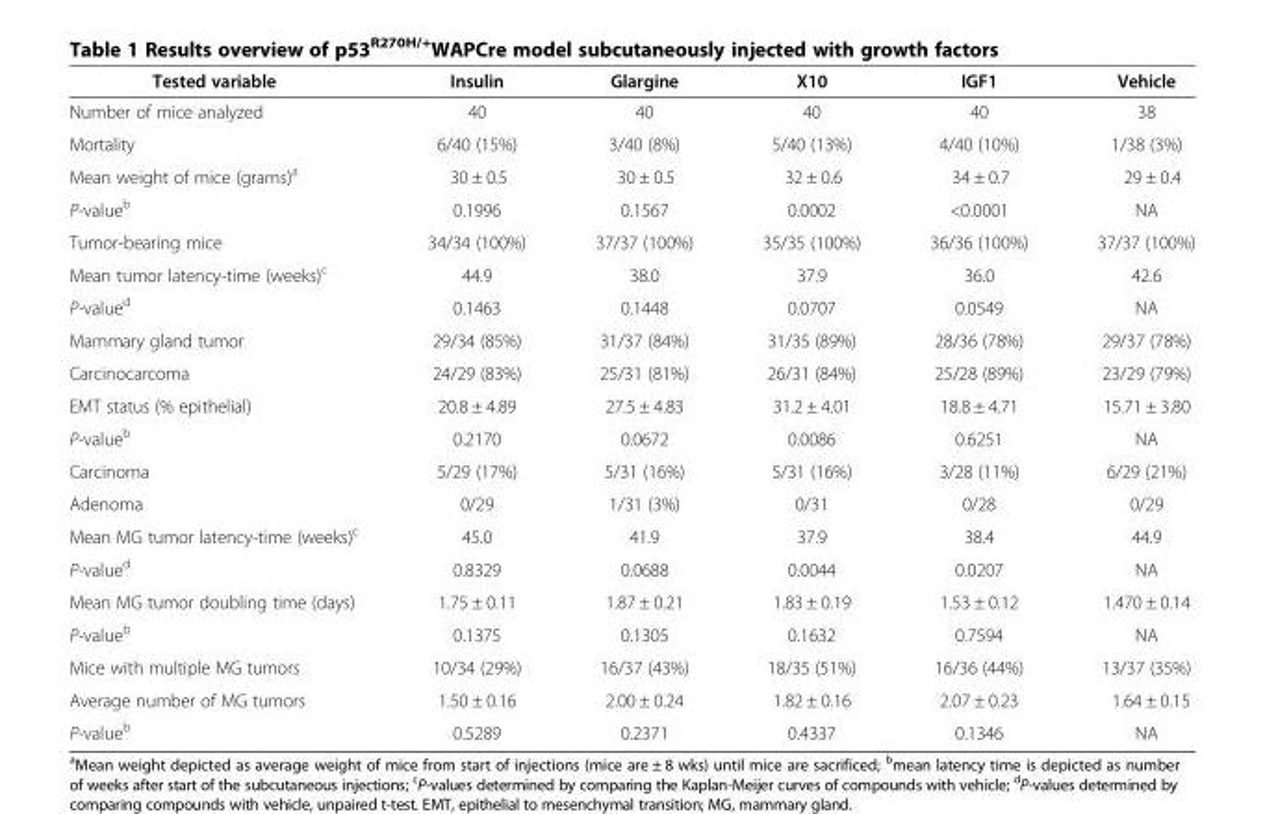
<table><thead><tr><td>Tested variable</td><td>Insulin</td><td>Glargine</td><td>X10</td><td>IGF1</td><td>Vehicle</td></tr></thead><tbody><tr><td>Number of mice analyzed</td><td>40</td><td>40</td><td>40</td><td>40</td><td>38</td></tr><tr><td>Mortality</td><td>6/40 (15%)</td><td>3/40 (8%)</td><td>5/40 (13%)</td><td>4/40 (10%)</td><td>1/38 (3%)</td></tr><tr><td>Mean weight of mice (grams)<sup>a</sup></td><td>30 ± 0.5</td><td>30 ± 0.5</td><td>32 ± 0.6</td><td>34 ± 0.7</td><td>29 ± 0.4</td></tr><tr><td>P-value<sup>b</sup></td><td>0.1996</td><td>0.1567</td><td>0.0002</td><td>&lt;0.0001</td><td>NA</td></tr><tr><td>Tumor-bearing mice</td><td>34/34 (100%)</td><td>37/37 (100%)</td><td>35/35 (100%)</td><td>36/36 (100%)</td><td>37/37 (100%)</td></tr><tr><td>Mean tumor latency-time (weeks)<sup>c</sup></td><td>44.9</td><td>38.0</td><td>37.9</td><td>36.0</td><td>42.6</td></tr><tr><td>P-value<sup>d</sup></td><td>0.1463</td><td>0.1448</td><td>0.0707</td><td>0.0549</td><td>NA</td></tr><tr><td>Mammary gland tumor</td><td>29/34 (85%)</td><td>31/37 (84%)</td><td>31/35 (89%)</td><td>28/36 (78%)</td><td>29/37 (78%)</td></tr><tr><td>Carcinocarcoma</td><td>24/29 (83%)</td><td>25/31 (81%)</td><td>26/31 (84%)</td><td>25/28 (89%)</td><td>23/29 (79%)</td></tr><tr><td>EMT status (% epithelial)</td><td>20.8 ± 4.89</td><td>27.5 ± 4.83</td><td>31.2 ± 4.01</td><td>18.8 ± 4.71</td><td>15.71 ± 3.80</td></tr><tr><td>P-value<sup>b</sup></td><td>0.2170</td><td>0.0672</td><td>0.0086</td><td>0.6251</td><td>NA</td></tr><tr><td>Carcinoma</td><td>5/29 (17%)</td><td>5/31 (16%)</td><td>5/31 (16%)</td><td>3/28 (11%)</td><td>6/29 (21%)</td></tr><tr><td>Adenoma</td><td>0/29</td><td>1/31 (3%)</td><td>0/31</td><td>0/28</td><td>0/29</td></tr><tr><td>Mean MG tumor latency-time (weeks)<sup>c</sup></td><td>45.0</td><td>41.9</td><td>37.9</td><td>38.4</td><td>44.9</td></tr><tr><td>P-value<sup>d</sup></td><td>0.8329</td><td>0.0688</td><td>0.0044</td><td>0.0207</td><td>NA</td></tr><tr><td>Mean MG tumor doubling time (days)</td><td>1.75 ± 0.11</td><td>1.87 ± 0.21</td><td>1.83 ± 0.19</td><td>1.53 ± 0.12</td><td>1.470 ± 0.14</td></tr><tr><td>P-value<sup>b</sup></td><td>0.1375</td><td>0.1305</td><td>0.1632</td><td>0.7594</td><td>NA</td></tr><tr><td>Mice with multiple MG tumors</td><td>10/34 (29%)</td><td>16/37 (43%)</td><td>18/35 (51%)</td><td>16/36 (44%)</td><td>13/37 (35%)</td></tr><tr><td>Average number of MG tumors</td><td>1.50 ± 0.16</td><td>2.00 ± 0.24</td><td>1.82 ± 0.16</td><td>2.07 ± 0.23</td><td>1.64 ± 0.15</td></tr><tr><td>P-value<sup>b</sup></td><td>0.5289</td><td>0.2371</td><td>0.4337</td><td>0.1346</td><td>NA</td></tr></tbody></table>